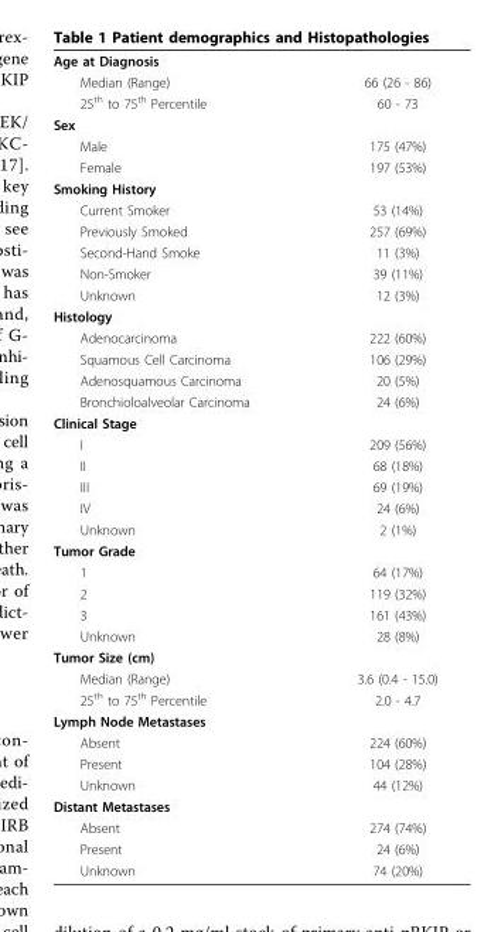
<table><tbody><tr><td colspan="2">Age at Diagnosis</td></tr><tr><td>Median (Range)</td><td>66 (26 - 86)</td></tr><tr><td>25<sup>th</sup> to 75<sup>th</sup> Percentile</td><td>60 - 73</td></tr><tr><td colspan="2">Sex</td></tr><tr><td>Male</td><td>175 (47%)</td></tr><tr><td>Female</td><td>197 (53%)</td></tr><tr><td colspan="2">Smoking History</td></tr><tr><td>Current Smoker</td><td>53 (14%)</td></tr><tr><td>Previously Smoked</td><td>257 (69%)</td></tr><tr><td>Second-Hand Smoke</td><td>11 (3%)</td></tr><tr><td>Non-Smoker</td><td>39 (11%)</td></tr><tr><td>Unknown</td><td>12 (3%)</td></tr><tr><td colspan="2">Histology</td></tr><tr><td>Adenocarcinoma</td><td>222 (60%)</td></tr><tr><td>Squamous Cell Carcinoma</td><td>106 (29%)</td></tr><tr><td>Adenosquamous Carcinoma</td><td>20 (5%)</td></tr><tr><td>Bronchioloalveolar Carcinoma</td><td>24 (6%)</td></tr><tr><td colspan="2">Clinical Stage</td></tr><tr><td>I</td><td>209 (56%)</td></tr><tr><td>II</td><td>68 (18%)</td></tr><tr><td>III</td><td>69 (19%)</td></tr><tr><td>IV</td><td>24 (6%)</td></tr><tr><td>Unknown</td><td>2 (1%)</td></tr><tr><td colspan="2">Tumor Grade</td></tr><tr><td>1</td><td>64 (17%)</td></tr><tr><td>2</td><td>119 (32%)</td></tr><tr><td>3</td><td>161 (43%)</td></tr><tr><td>Unknown</td><td>28 (8%)</td></tr><tr><td colspan="2">Tumor Size (cm)</td></tr><tr><td>Median (Range)</td><td>3.6 (0.4 - 15.0)</td></tr><tr><td>25<sup>th</sup> to 75<sup>th</sup> Percentile</td><td>2.0 - 4.7</td></tr><tr><td colspan="2">Lymph Node Metastases</td></tr><tr><td>Absent</td><td>224 (60%)</td></tr><tr><td>Present</td><td>104 (28%)</td></tr><tr><td>Unknown</td><td>44 (12%)</td></tr><tr><td colspan="2">Distant Metastases</td></tr><tr><td>Absent</td><td>274 (74%)</td></tr><tr><td>Present</td><td>24 (6%)</td></tr><tr><td>Unknown</td><td>74 (20%)</td></tr></tbody></table>